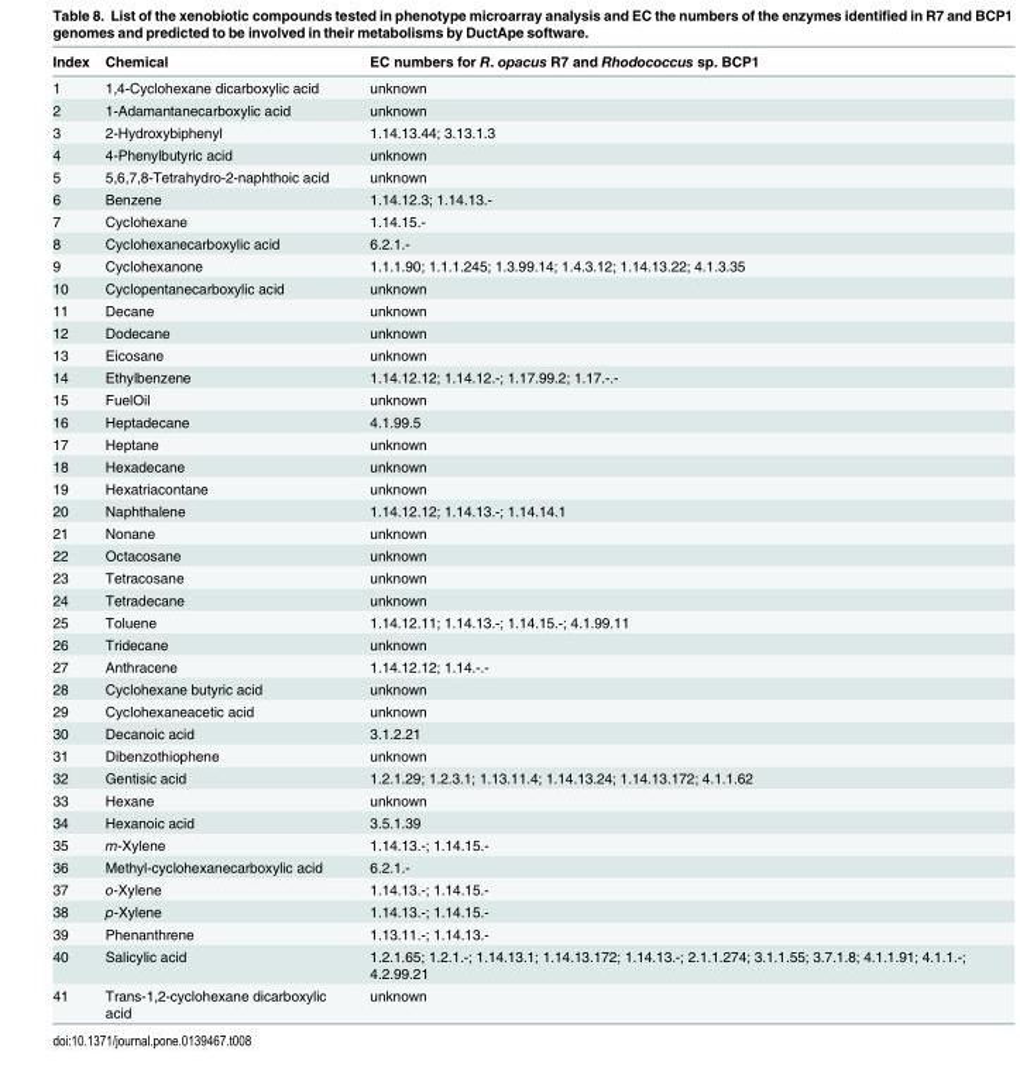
<table><thead><tr><td>Index</td><td>Chemical</td><td>EC numbers for R. opacus R7 and Rhodococcus sp. BCP1</td></tr></thead><tbody><tr><td>1</td><td>1,4-Cyclohexane dicarboxylic acid</td><td>unknown</td></tr><tr><td>2</td><td>1-Adamantanecarboxylic acid</td><td>unknown</td></tr><tr><td>3</td><td>2-Hydroxybiphenyl</td><td>1.14.13.44; 3.13.1.3</td></tr><tr><td>4</td><td>4-Phenylbutyric acid</td><td>unknown</td></tr><tr><td>5</td><td>5,6,7,8-Tetrahydro-2-naphthoic acid</td><td>unknown</td></tr><tr><td>6</td><td>Benzene</td><td>1.14.12.3; 1.14.13.-</td></tr><tr><td>7</td><td>Cyclohexane</td><td>1.14.15.-</td></tr><tr><td>8</td><td>Cyclohexanecarboxylic acid</td><td>6.2.1.-</td></tr><tr><td>9</td><td>Cyclohexanone</td><td>1.1.1.90; 1.1.1.245; 1.3.99.14; 1.4.3.12; 1.14.13.22; 4.1.3.35</td></tr><tr><td>10</td><td>Cyclopentanecarboxylic acid</td><td>unknown</td></tr><tr><td>11</td><td>Decane</td><td>unknown</td></tr><tr><td>12</td><td>Dodecane</td><td>unknown</td></tr><tr><td>13</td><td>Eicosane</td><td>unknown</td></tr><tr><td>14</td><td>Ethylbenzene</td><td>1.14.12.12; 1.14.12.-; 1.17.99.2; 1.17.-.-</td></tr><tr><td>15</td><td>FuelOil</td><td>unknown</td></tr><tr><td>16</td><td>Heptadecane</td><td>4.1.99.5</td></tr><tr><td>17</td><td>Heptane</td><td>unknown</td></tr><tr><td>18</td><td>Hexadecane</td><td>unknown</td></tr><tr><td>19</td><td>Hexatriacontane</td><td>unknown</td></tr><tr><td>20</td><td>Naphthalene</td><td>1.14.12.12; 1.14.13.-; 1.14.14.1</td></tr><tr><td>21</td><td>Nonane</td><td>unknown</td></tr><tr><td>22</td><td>Octacosane</td><td>unknown</td></tr><tr><td>23</td><td>Tetracosane</td><td>unknown</td></tr><tr><td>24</td><td>Tetradecane</td><td>unknown</td></tr><tr><td>25</td><td>Toluene</td><td>1.14.12.11; 1.14.13.-; 1.14.15.-; 4.1.99.11</td></tr><tr><td>26</td><td>Tridecane</td><td>unknown</td></tr><tr><td>27</td><td>Anthracene</td><td>1.14.12.12; 1.14.-.-</td></tr><tr><td>28</td><td>Cyclohexane butyric acid</td><td>unknown</td></tr><tr><td>29</td><td>Cyclohexaneacetic acid</td><td>unknown</td></tr><tr><td>30</td><td>Decanoic acid</td><td>3.1.2.21</td></tr><tr><td>31</td><td>Dibenzothiophene</td><td>unknown</td></tr><tr><td>32</td><td>Gentisic acid</td><td>1.2.1.29; 1.2.3.1; 1.13.11.4; 1.14.13.24; 1.14.13.172; 4.1.1.62</td></tr><tr><td>33</td><td>Hexane</td><td>unknown</td></tr><tr><td>34</td><td>Hexanoic acid</td><td>3.5.1.39</td></tr><tr><td>35</td><td>m-Xylene</td><td>1.14.13.-; 1.14.15.-</td></tr><tr><td>36</td><td>Methyl-cyclohexanecarboxylic acid</td><td>6.2.1.-</td></tr><tr><td>37</td><td>o-Xylene</td><td>1.14.13.-; 1.14.15.-</td></tr><tr><td>38</td><td>p-Xylene</td><td>1.14.13.-; 1.14.15.-</td></tr><tr><td>39</td><td>Phenanthrene</td><td>1.13.11.-; 1.14.13.-</td></tr><tr><td>40</td><td>Salicylic acid</td><td>1.2.1.65; 1.2.1.-; 1.14.13.1; 1.14.13.172; 1.14.13.-; 2.1.1.274; 3.1.1.55; 3.7.1.8; 4.1.1.91; 4.1.1.-; 4.2.99.21</td></tr><tr><td>41</td><td>Trans-1,2-cyclohexane dicarboxylic acid</td><td>unknown</td></tr></tbody></table>